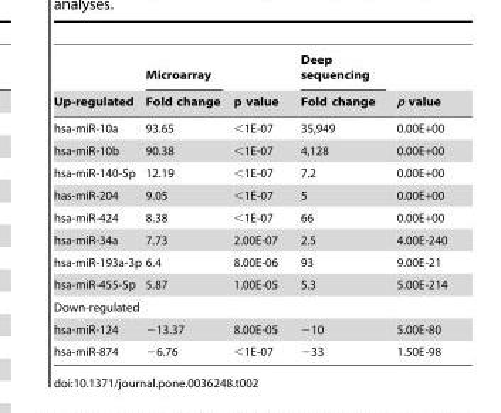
<table><thead><tr><td rowspan="2">Up-regulated</td><td rowspan="2">Microarray Fold change</td><td rowspan="2">p value</td><td rowspan="2">Deep sequencing Fold change</td><td rowspan="2">p value</td></tr><tr></tr></thead><tbody><tr><td>hsa-miR-10a</td><td>93.65</td><td>&lt;1E-07</td><td>35,949</td><td>0.00E+00</td></tr><tr><td>hsa-miR-10b</td><td>90.38</td><td>&lt;1E-07</td><td>4,128</td><td>0.00E+00</td></tr><tr><td>hsa-miR-140-5p</td><td>12.19</td><td>&lt;1E-07</td><td>7.2</td><td>0.00E+00</td></tr><tr><td>has-miR-204</td><td>9.05</td><td>&lt;1E-07</td><td>5</td><td>0.00E+00</td></tr><tr><td>hsa-miR-424</td><td>8.38</td><td>&lt;1E-07</td><td>66</td><td>0.00E+00</td></tr><tr><td>hsa-miR-34a</td><td>7.73</td><td>2.00E-07</td><td>2.5</td><td>4.00E-240</td></tr><tr><td>hsa-miR-193a-3p</td><td>6.4</td><td>8.00E-06</td><td>93</td><td>9.00E-21</td></tr><tr><td>hsa-miR-455-5p</td><td>5.87</td><td>1.00E-05</td><td>5.3</td><td>5.00E-214</td></tr><tr><td colspan="5">Down-regulated</td></tr><tr><td>hsa-miR-124</td><td>−13.37</td><td>8.00E-05</td><td>−10</td><td>5.00E-80</td></tr><tr><td>hsa-miR-874</td><td>−6.76</td><td>&lt;1E-07</td><td>−33</td><td>1.50E-98</td></tr></tbody></table>